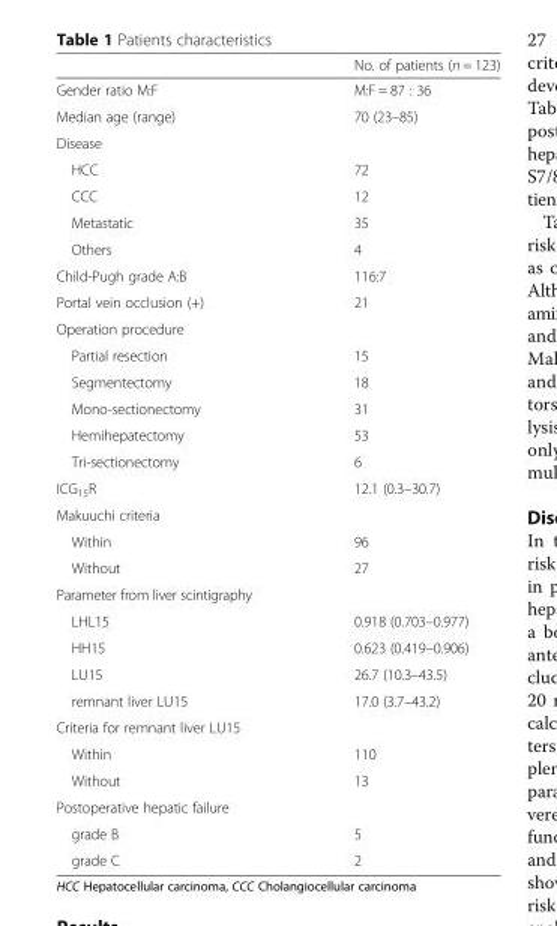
<table><thead><tr><td></td><td>No. of patients (n = 123)</td></tr></thead><tbody><tr><td>Gender ratio M:F</td><td>M:F = 87 : 36</td></tr><tr><td>Median age (range)</td><td>70 (23–85)</td></tr><tr><td colspan="2">Disease</td></tr><tr><td>HCC</td><td>72</td></tr><tr><td>CCC</td><td>12</td></tr><tr><td>Metastatic</td><td>35</td></tr><tr><td>Others</td><td>4</td></tr><tr><td>Child-Pugh grade A:B</td><td>116:7</td></tr><tr><td>Portal vein occlusion (+)</td><td>21</td></tr><tr><td colspan="2">Operation procedure</td></tr><tr><td>Partial resection</td><td>15</td></tr><tr><td>Segmentectomy</td><td>18</td></tr><tr><td>Mono-sectionectomy</td><td>31</td></tr><tr><td>Hemihepatectomy</td><td>53</td></tr><tr><td>Tri-sectionectomy</td><td>6</td></tr><tr><td>ICG<sub>15</sub>R</td><td>12.1 (0.3–30.7)</td></tr><tr><td colspan="2">Makuuchi criteria</td></tr><tr><td>Within</td><td>96</td></tr><tr><td>Without</td><td>27</td></tr><tr><td colspan="2">Parameter from liver scintigraphy</td></tr><tr><td>LHL15</td><td>0.918 (0.703–0.977)</td></tr><tr><td>HH15</td><td>0.623 (0.419–0.906)</td></tr><tr><td>LU15</td><td>26.7 (10.3–43.5)</td></tr><tr><td>remnant liver LU15</td><td>17.0 (3.7–43.2)</td></tr><tr><td colspan="2">Criteria for remnant liver LU15</td></tr><tr><td>Within</td><td>110</td></tr><tr><td>Without</td><td>13</td></tr><tr><td colspan="2">Postoperative hepatic failure</td></tr><tr><td>grade B</td><td>5</td></tr><tr><td>grade C</td><td>2</td></tr></tbody></table>